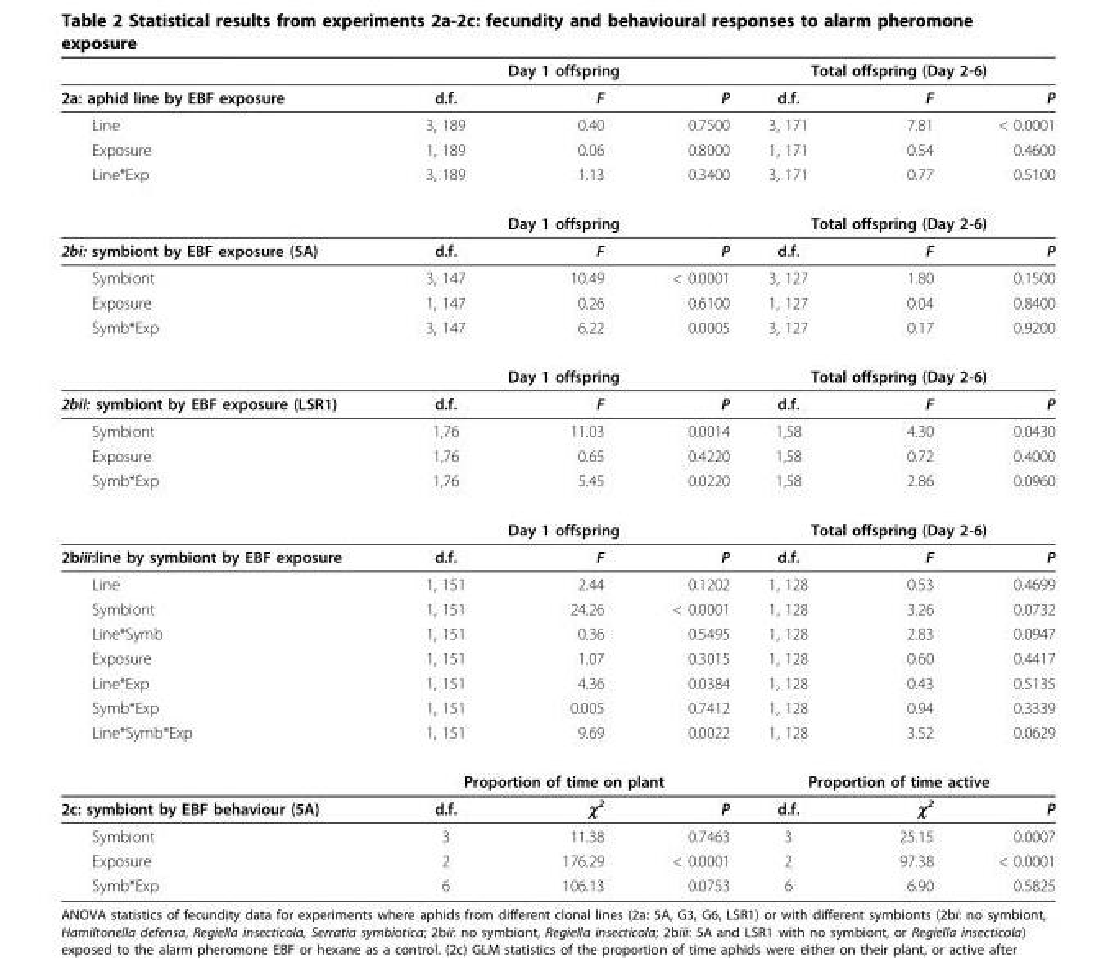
<table><thead><tr><td rowspan="2">2a: aphid line by EBF exposure</td><td colspan="3">Day 1 offspring</td><td colspan="3">Total offspring (Day 2-6)</td></tr><tr><td>d.f.</td><td>F</td><td>P</td><td>d.f.</td><td>F</td><td>P</td></tr></thead><tbody><tr><td>Line</td><td>3, 189</td><td>0.40</td><td>0.7500</td><td>3, 171</td><td>7.81</td><td>&lt; 0.0001</td></tr><tr><td>Exposure</td><td>1, 189</td><td>0.06</td><td>0.8000</td><td>1, 171</td><td>0.54</td><td>0.4600</td></tr><tr><td rowspan="2">Line*Exp</td><td>3, 189</td><td>1.13</td><td>0.3400</td><td>3, 171</td><td>0.77</td><td>0.5100</td></tr><tr><td colspan="3">Day 1 offspring</td><td colspan="3">Total offspring (Day 2-6)</td></tr><tr><td>2bi: symbiont by EBF exposure (5A)</td><td>d.f.</td><td>F</td><td>P</td><td>d.f.</td><td>F</td><td>P</td></tr><tr><td>Symbiont</td><td>3, 147</td><td>10.49</td><td>&lt; 0.0001</td><td>3, 127</td><td>1.80</td><td>0.1500</td></tr><tr><td>Exposure</td><td>1, 147</td><td>0.26</td><td>0.6100</td><td>1, 127</td><td>0.04</td><td>0.8400</td></tr><tr><td rowspan="2">Symb*Exp</td><td>3, 147</td><td>6.22</td><td>0.0005</td><td>3, 127</td><td>0.17</td><td>0.9200</td></tr><tr><td colspan="3">Day 1 offspring</td><td colspan="3">Total offspring (Day 2-6)</td></tr><tr><td>2bii: symbiont by EBF exposure (LSR1)</td><td>d.f.</td><td>F</td><td>P</td><td>d.f.</td><td>F</td><td>P</td></tr><tr><td>Symbiont</td><td>1,76</td><td>11.03</td><td>0.0014</td><td>1,58</td><td>4.30</td><td>0.0430</td></tr><tr><td>Exposure</td><td>1,76</td><td>0.65</td><td>0.4220</td><td>1,58</td><td>0.72</td><td>0.4000</td></tr><tr><td rowspan="2">Symb*Exp</td><td>1,76</td><td>5.45</td><td>0.0220</td><td>1,58</td><td>2.86</td><td>0.0960</td></tr><tr><td colspan="3">Day 1 offspring</td><td colspan="3">Total offspring (Day 2-6)</td></tr><tr><td>2biii:line by symbiont by EBF exposure</td><td>d.f.</td><td>F</td><td>P</td><td>d.f.</td><td>F</td><td>P</td></tr><tr><td>Line</td><td>1, 151</td><td>2.44</td><td>0.1202</td><td>1, 128</td><td>0.53</td><td>0.4699</td></tr><tr><td>Symbiont</td><td>1, 151</td><td>24.26</td><td>&lt; 0.0001</td><td>1, 128</td><td>3.26</td><td>0.0732</td></tr><tr><td>Line*Symb</td><td>1, 151</td><td>0.36</td><td>0.5495</td><td>1, 128</td><td>2.83</td><td>0.0947</td></tr><tr><td>Exposure</td><td>1, 151</td><td>1.07</td><td>0.3015</td><td>1, 128</td><td>0.60</td><td>0.4417</td></tr><tr><td>Line*Exp</td><td>1, 151</td><td>4.36</td><td>0.0384</td><td>1, 128</td><td>0.43</td><td>0.5135</td></tr><tr><td>Symb*Exp</td><td>1, 151</td><td>0.005</td><td>0.7412</td><td>1, 128</td><td>0.94</td><td>0.3339</td></tr><tr><td rowspan="2">Line*Symb*Exp</td><td>1, 151</td><td>9.69</td><td>0.0022</td><td>1, 128</td><td>3.52</td><td>0.0629</td></tr><tr><td colspan="3">Proportion of time on plant</td><td colspan="3">Proportion of time active</td></tr><tr><td>2c: symbiont by EBF behaviour (5A)</td><td>d.f.</td><td>χ<sup>2</sup></td><td>P</td><td>d.f.</td><td>χ<sup>2</sup></td><td>P</td></tr><tr><td>Symbiont</td><td>3</td><td>11.38</td><td>0.7463</td><td>3</td><td>25.15</td><td>0.0007</td></tr><tr><td>Exposure</td><td>2</td><td>176.29</td><td>&lt; 0.0001</td><td>2</td><td>97.38</td><td>&lt; 0.0001</td></tr><tr><td>Symb*Exp</td><td>6</td><td>106.13</td><td>0.0753</td><td>6</td><td>6.90</td><td>0.5825</td></tr></tbody></table>